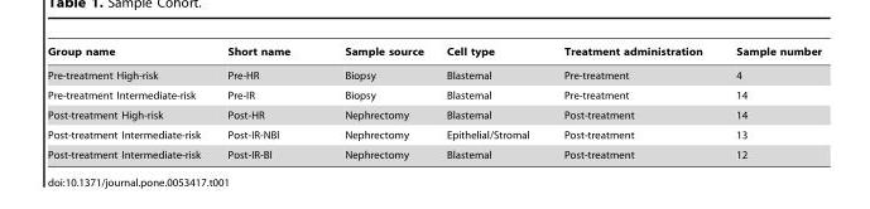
<table><thead><tr><td>Group name</td><td>Short name</td><td>Sample source</td><td>Cell type</td><td>Treatment administration</td><td>Sample number</td></tr></thead><tbody><tr><td>Pre-treatment High-risk</td><td>Pre-HR</td><td>Biopsy</td><td>Blastemal</td><td>Pre-treatment</td><td>4</td></tr><tr><td>Pre-treatment Intermediate-risk</td><td>Pre-IR</td><td>Biopsy</td><td>Blastemal</td><td>Pre-treatment</td><td>14</td></tr><tr><td>Post-treatment High-risk</td><td>Post-HR</td><td>Nephrectomy</td><td>Blastemal</td><td>Post-treatment</td><td>14</td></tr><tr><td>Post-treatment Intermediate-risk</td><td>Post-IR-NBl</td><td>Nephrectomy</td><td>Epithelial/Stromal</td><td>Post-treatment</td><td>13</td></tr><tr><td>Post-treatment Intermediate-risk</td><td>Post-IR-Bl</td><td>Nephrectomy</td><td>Blastemal</td><td>Post-treatment</td><td>12</td></tr></tbody></table>